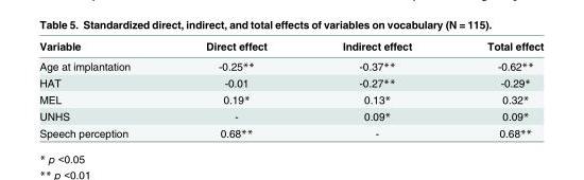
<table><thead><tr><td>Variable</td><td>Direct effect</td><td>Indirect effect</td><td>Total effect</td></tr></thead><tbody><tr><td>Age at implantation</td><td>-0.25**</td><td>-0.37**</td><td>-0.62**</td></tr><tr><td>HAT</td><td>-0.01</td><td>-0.27**</td><td>-0.29*</td></tr><tr><td>MEL</td><td>0.19*</td><td>0.13*</td><td>0.32*</td></tr><tr><td>UNHS</td><td>-</td><td>0.09*</td><td>0.09*</td></tr><tr><td>Speech perception</td><td>0.68**</td><td>-</td><td>0.68**</td></tr></tbody></table>